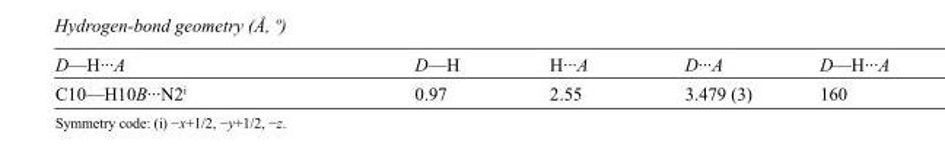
<table><tbody><tr><td>D—H···A</td><td>D—H</td><td>H···A</td><td>D···A</td><td>D—H···A</td></tr><tr><td>C10—H10B···N2<sup>i</sup></td><td>0.97</td><td>2.55</td><td>3.479 (3)</td><td>160</td></tr></tbody></table>